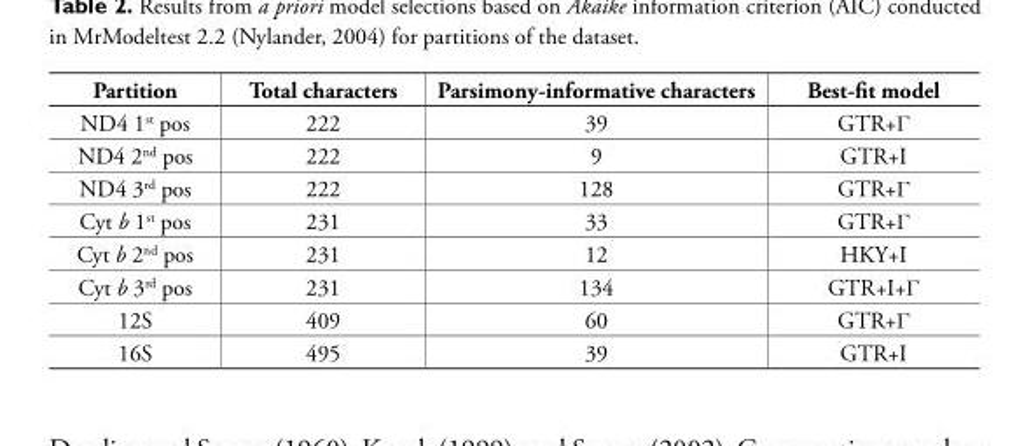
<table><thead><tr><td>Partition</td><td>Total characters</td><td>Parsimony-informative characters</td><td>Best-fit model</td></tr></thead><tbody><tr><td>ND4 1<sup>st</sup> pos</td><td>222</td><td>39</td><td>GTR+Γ</td></tr><tr><td>ND4 2<sup>nd</sup> pos</td><td>222</td><td>9</td><td>GTR+I</td></tr><tr><td>ND4 3<sup>rd</sup> pos</td><td>222</td><td>128</td><td>GTR+Γ</td></tr><tr><td>Cyt b 1<sup>st</sup> pos</td><td>231</td><td>33</td><td>GTR+Γ</td></tr><tr><td>Cyt b 2<sup>nd</sup> pos</td><td>231</td><td>12</td><td>HKY+I</td></tr><tr><td>Cyt b 3<sup>rd</sup> pos</td><td>231</td><td>134</td><td>GTR+I+Γ</td></tr><tr><td>12S</td><td>409</td><td>60</td><td>GTR+Γ</td></tr><tr><td>16S</td><td>495</td><td>39</td><td>GTR+I</td></tr></tbody></table>